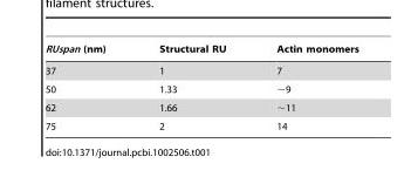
<table><thead><tr><td>RUspan (nm)</td><td>Structural RU</td><td>Actin monomers</td></tr></thead><tbody><tr><td>37</td><td>1</td><td>7</td></tr><tr><td>50</td><td>1.33</td><td>∼9</td></tr><tr><td>62</td><td>1.66</td><td>∼11</td></tr><tr><td>75</td><td>2</td><td>14</td></tr></tbody></table>